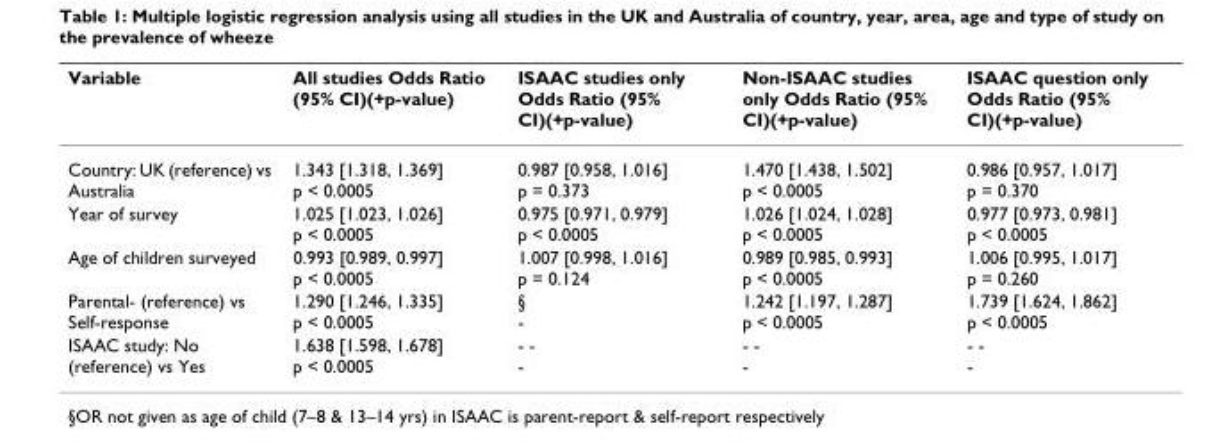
<table><thead><tr><td>Variable</td><td>All studies Odds Ratio (95% CI)(+p-value)</td><td>ISAAC studies only Odds Ratio (95% CI)(+p-value)</td><td>Non-ISAAC studies only Odds Ratio (95% CI)(+p-value)</td><td>ISAAC question only Odds Ratio (95% CI)(+p-value)</td></tr></thead><tbody><tr><td>Country: UK (reference) vs Australia</td><td>1.343 [1.318, 1.369] p &lt; 0.0005</td><td>0.987 [0.958, 1.016] p = 0.373</td><td>1.470 [1.438, 1.502] p &lt; 0.0005</td><td>0.986 [0.957, 1.017] p = 0.370</td></tr><tr><td>Year of survey</td><td>1.025 [1.023, 1.026] p &lt; 0.0005</td><td>0.975 [0.971, 0.979] p &lt; 0.0005</td><td>1.026 [1.024, 1.028] p &lt; 0.0005</td><td>0.977 [0.973, 0.981] p &lt; 0.0005</td></tr><tr><td>Age of children surveyed</td><td>0.993 [0.989, 0.997] p &lt; 0.0005</td><td>1.007 [0.998, 1.016] p = 0.124</td><td>0.989 [0.985, 0.993] p &lt; 0.0005</td><td>1.006 [0.995, 1.017] p = 0.260</td></tr><tr><td>Parental- (reference) vs Self-response</td><td>1.290 [1.246, 1.335] p &lt; 0.0005</td><td>§ -</td><td>1.242 [1.197, 1.287] p &lt; 0.0005</td><td>1.739 [1.624, 1.862] p &lt; 0.0005</td></tr><tr><td>ISAAC study: No (reference) vs Yes</td><td>1.638 [1.598, 1.678] p &lt; 0.0005</td><td>- - -</td><td>- - -</td><td>- - -</td></tr></tbody></table>